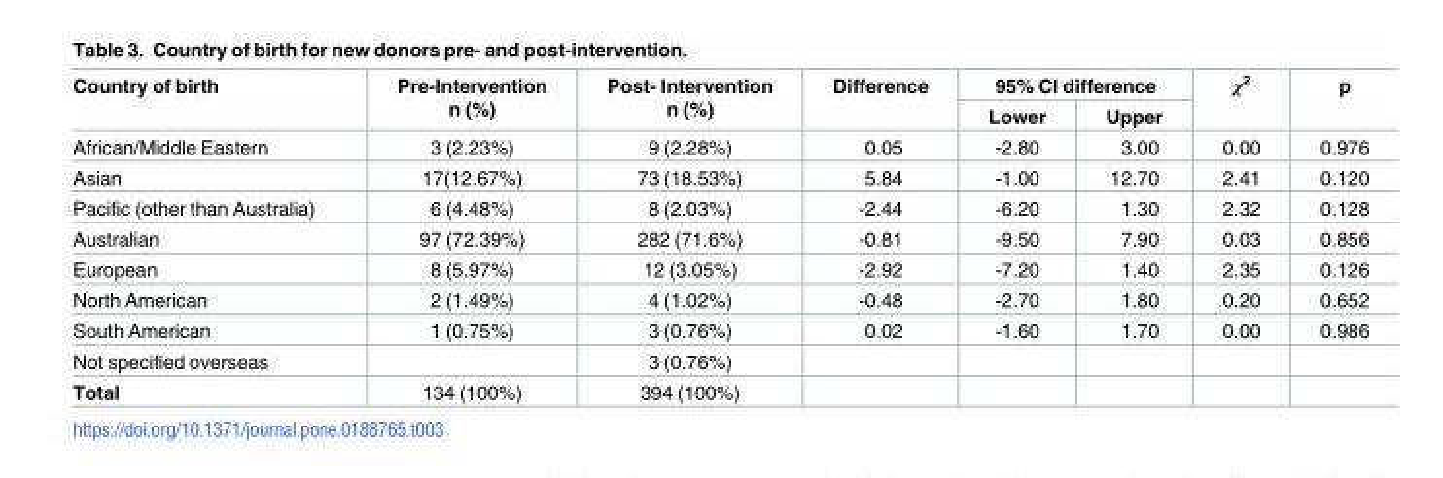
<table><thead><tr><td rowspan="2">Country of birth</td><td rowspan="2">Pre-Intervention n (%)</td><td rowspan="2">Post- Intervention n (%)</td><td rowspan="2">Difference</td><td colspan="2">95% CI difference</td><td rowspan="2">χ<sup>2</sup></td><td rowspan="2">p</td></tr><tr><td>Lower</td><td>Upper</td></tr></thead><tbody><tr><td>African/Middle Eastern</td><td>3 (2.23%)</td><td>9 (2.28%)</td><td>0.05</td><td>-2.80</td><td>3.00</td><td>0.00</td><td>0.976</td></tr><tr><td>Asian</td><td>17(12.67%)</td><td>73 (18.53%)</td><td>5.84</td><td>-1.00</td><td>12.70</td><td>2.41</td><td>0.120</td></tr><tr><td>Pacific (other than Australia)</td><td>6 (4.48%)</td><td>8 (2.03%)</td><td>-2.44</td><td>-6.20</td><td>1.30</td><td>2.32</td><td>0.128</td></tr><tr><td>Australian</td><td>97 (72.39%)</td><td>282 (71.6%)</td><td>-0.81</td><td>-9.50</td><td>7.90</td><td>0.03</td><td>0.856</td></tr><tr><td>European</td><td>8 (5.97%)</td><td>12 (3.05%)</td><td>-2.92</td><td>-7.20</td><td>1.40</td><td>2.35</td><td>0.126</td></tr><tr><td>North American</td><td>2 (1.49%)</td><td>4 (1.02%)</td><td>-0.48</td><td>-2.70</td><td>1.80</td><td>0.20</td><td>0.652</td></tr><tr><td>South American</td><td>1 (0.75%)</td><td>3 (0.76%)</td><td>0.02</td><td>-1.60</td><td>1.70</td><td>0.00</td><td>0.986</td></tr><tr><td>Not specified overseas</td><td></td><td>3 (0.76%)</td><td></td><td></td><td></td><td></td><td></td></tr><tr><td>Total</td><td>134 (100%)</td><td>394 (100%)</td><td></td><td></td><td></td><td></td><td></td></tr></tbody></table>